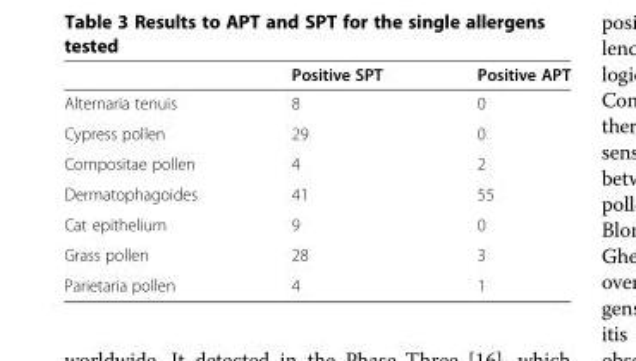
<table><thead><tr><td></td><td>Positive SPT</td><td>Positive APT</td></tr></thead><tbody><tr><td>Alternaria tenuis</td><td>8</td><td>0</td></tr><tr><td>Cypress pollen</td><td>29</td><td>0</td></tr><tr><td>Compositae pollen</td><td>4</td><td>2</td></tr><tr><td>Dermatophagoides</td><td>41</td><td>55</td></tr><tr><td>Cat epithelium</td><td>9</td><td>0</td></tr><tr><td>Grass pollen</td><td>28</td><td>3</td></tr><tr><td>Parietaria pollen</td><td>4</td><td>1</td></tr></tbody></table>